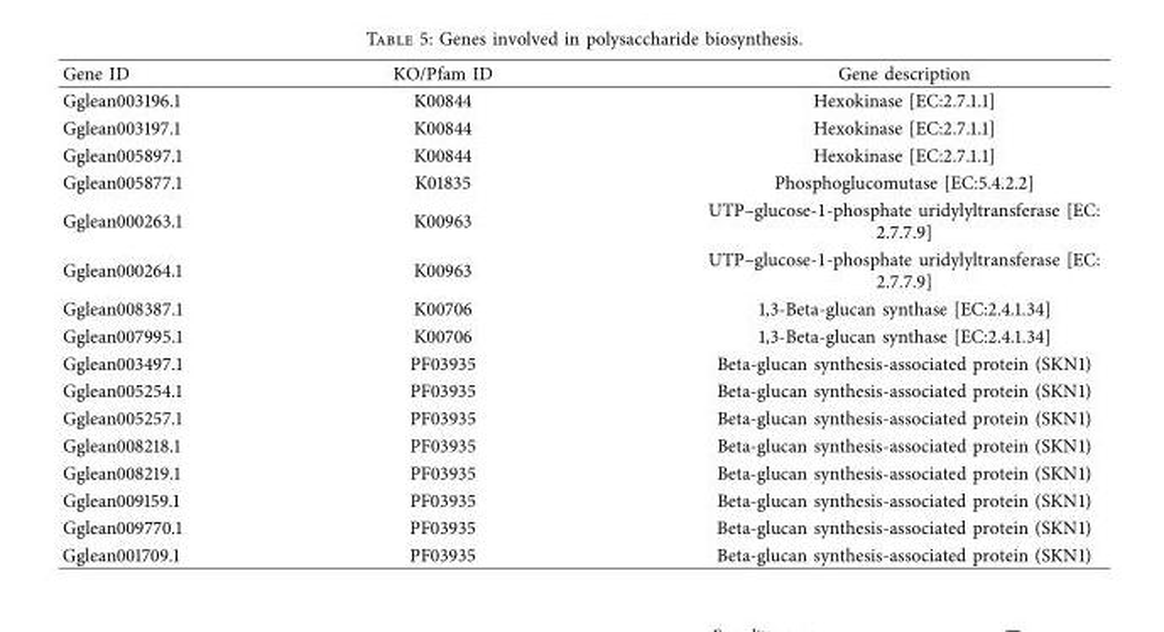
<table><thead><tr><td>Gene ID</td><td>KO/Pfam ID</td><td>Gene description</td></tr></thead><tbody><tr><td>Gglean003196.1</td><td>K00844</td><td>Hexokinase [EC:2.7.1.1]</td></tr><tr><td>Gglean003197.1</td><td>K00844</td><td>Hexokinase [EC:2.7.1.1]</td></tr><tr><td>Gglean005897.1</td><td>K00844</td><td>Hexokinase [EC:2.7.1.1]</td></tr><tr><td>Gglean005877.1</td><td>K01835</td><td>Phosphoglucomutase [EC:5.4.2.2]</td></tr><tr><td>Gglean000263.1</td><td>K00963</td><td>UTP–glucose-1-phosphate uridylyltransferase [EC: 2.7.7.9]</td></tr><tr><td>Gglean000264.1</td><td>K00963</td><td>UTP–glucose-1-phosphate uridylyltransferase [EC: 2.7.7.9]</td></tr><tr><td>Gglean008387.1</td><td>K00706</td><td>1,3-Beta-glucan synthase [EC:2.4.1.34]</td></tr><tr><td>Gglean007995.1</td><td>K00706</td><td>1,3-Beta-glucan synthase [EC:2.4.1.34]</td></tr><tr><td>Gglean003497.1</td><td>PF03935</td><td>Beta-glucan synthesis-associated protein (SKN1)</td></tr><tr><td>Gglean005254.1</td><td>PF03935</td><td>Beta-glucan synthesis-associated protein (SKN1)</td></tr><tr><td>Gglean005257.1</td><td>PF03935</td><td>Beta-glucan synthesis-associated protein (SKN1)</td></tr><tr><td>Gglean008218.1</td><td>PF03935</td><td>Beta-glucan synthesis-associated protein (SKN1)</td></tr><tr><td>Gglean008219.1</td><td>PF03935</td><td>Beta-glucan synthesis-associated protein (SKN1)</td></tr><tr><td>Gglean009159.1</td><td>PF03935</td><td>Beta-glucan synthesis-associated protein (SKN1)</td></tr><tr><td>Gglean009770.1</td><td>PF03935</td><td>Beta-glucan synthesis-associated protein (SKN1)</td></tr><tr><td>Gglean001709.1</td><td>PF03935</td><td>Beta-glucan synthesis-associated protein (SKN1)</td></tr></tbody></table>